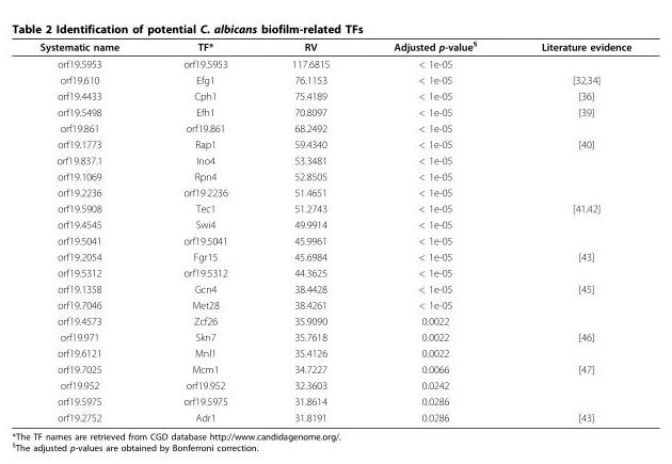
<table><thead><tr><td>Systematic name</td><td>TF*</td><td>RV</td><td>Adjusted p-value<sup>§</sup></td><td>Literature evidence</td></tr></thead><tbody><tr><td>orf19.5953</td><td>orf19.5953</td><td>117.6815</td><td>&lt; 1e-05</td><td></td></tr><tr><td>orf19.610</td><td>Efg1</td><td>76.1153</td><td>&lt; 1e-05</td><td>[32,34]</td></tr><tr><td>orf19.4433</td><td>Cph1</td><td>75.4189</td><td>&lt; 1e-05</td><td>[36]</td></tr><tr><td>orf19.5498</td><td>Efh1</td><td>70.8097</td><td>&lt; 1e-05</td><td>[39]</td></tr><tr><td>orf19.861</td><td>orf19.861</td><td>68.2492</td><td>&lt; 1e-05</td><td></td></tr><tr><td>orf19.1773</td><td>Rap1</td><td>59.4340</td><td>&lt; 1e-05</td><td>[40]</td></tr><tr><td>orf19.837.1</td><td>Ino4</td><td>53.3481</td><td>&lt; 1e-05</td><td></td></tr><tr><td>orf19.1069</td><td>Rpn4</td><td>52.8505</td><td>&lt; 1e-05</td><td></td></tr><tr><td>orf19.2236</td><td>orf19.2236</td><td>51.4651</td><td>&lt; 1e-05</td><td></td></tr><tr><td>orf19.5908</td><td>Tec1</td><td>51.2743</td><td>&lt; 1e-05</td><td>[41,42]</td></tr><tr><td>orf19.4545</td><td>Swi4</td><td>49.9914</td><td>&lt; 1e-05</td><td></td></tr><tr><td>orf19.5041</td><td>orf19.5041</td><td>45.9961</td><td>&lt; 1e-05</td><td></td></tr><tr><td>orf19.2054</td><td>Fgr15</td><td>45.6984</td><td>&lt; 1e-05</td><td>[43]</td></tr><tr><td>orf19.5312</td><td>orf19.5312</td><td>44.3625</td><td>&lt; 1e-05</td><td></td></tr><tr><td>orf19.1358</td><td>Gcn4</td><td>38.4428</td><td>&lt; 1e-05</td><td>[45]</td></tr><tr><td>orf19.7046</td><td>Met28</td><td>38.4261</td><td>&lt; 1e-05</td><td></td></tr><tr><td>orf19.4573</td><td>Zcf26</td><td>35.9090</td><td>0.0022</td><td></td></tr><tr><td>orf19.971</td><td>Skn7</td><td>35.7618</td><td>0.0022</td><td>[46]</td></tr><tr><td>orf19.6121</td><td>Mnl1</td><td>35.4126</td><td>0.0022</td><td></td></tr><tr><td>orf19.7025</td><td>Mcm1</td><td>34.7227</td><td>0.0066</td><td>[47]</td></tr><tr><td>orf19.952</td><td>orf19.952</td><td>32.3603</td><td>0.0242</td><td></td></tr><tr><td>orf19.5975</td><td>orf19.5975</td><td>31.8614</td><td>0.0286</td><td></td></tr><tr><td>orf19.2752</td><td>Adr1</td><td>31.8191</td><td>0.0286</td><td>[43]</td></tr></tbody></table>